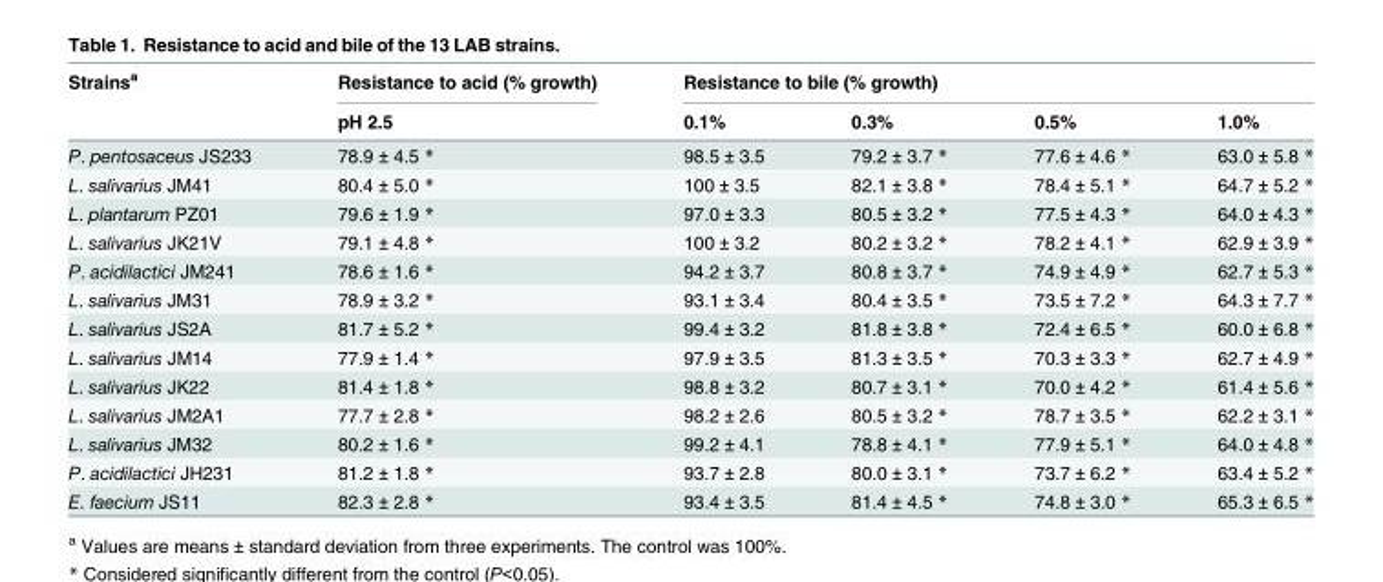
<table><thead><tr><td rowspan="2">Strains<sup>a</sup></td><td rowspan="2">Resistance to acid (% growth) pH 2.5</td><td colspan="4">Resistance to bile (% growth)</td></tr><tr><td>0.1%</td><td>0.3%</td><td>0.5%</td><td>1.0%</td></tr></thead><tbody><tr><td>P. pentosaceus JS233</td><td>78.9 ± 4.5 *</td><td>98.5 ± 3.5</td><td>79.2 ± 3.7 *</td><td>77.6 ± 4.6 *</td><td>63.0 ± 5.8 *</td></tr><tr><td>L. salivarius JM41</td><td>80.4 ± 5.0 *</td><td>100 ± 3.5</td><td>82.1 ± 3.8 *</td><td>78.4 ± 5.1 *</td><td>64.7 ± 5.2 *</td></tr><tr><td>L. plantarum PZ01</td><td>79.6 ± 1.9 *</td><td>97.0 ± 3.3</td><td>80.5 ± 3.2 *</td><td>77.5 ± 4.3 *</td><td>64.0 ± 4.3 *</td></tr><tr><td>L. salivarius JK21V</td><td>79.1 ± 4.8 *</td><td>100 ± 3.2</td><td>80.2 ± 3.2 *</td><td>78.2 ± 4.1 *</td><td>62.9 ± 3.9 *</td></tr><tr><td>P. acidilactici JM241</td><td>78.6 ± 1.6 *</td><td>94.2 ± 3.7</td><td>80.8 ± 3.7 *</td><td>74.9 ± 4.9 *</td><td>62.7 ± 5.3 *</td></tr><tr><td>L. salivarius JM31</td><td>78.9 ± 3.2 *</td><td>93.1 ± 3.4</td><td>80.4 ± 3.5 *</td><td>73.5 ± 7.2 *</td><td>64.3 ± 7.7 *</td></tr><tr><td>L. salivarius JS2A</td><td>81.7 ± 5.2 *</td><td>99.4 ± 3.2</td><td>81.8 ± 3.8 *</td><td>72.4 ± 6.5 *</td><td>60.0 ± 6.8 *</td></tr><tr><td>L. salivarius JM14</td><td>77.9 ± 1.4 *</td><td>97.9 ± 3.5</td><td>81.3 ± 3.5 *</td><td>70.3 ± 3.3 *</td><td>62.7 ± 4.9 *</td></tr><tr><td>L. salivarius JK22</td><td>81.4 ± 1.8 *</td><td>98.8 ± 3.2</td><td>80.7 ± 3.1 *</td><td>70.0 ± 4.2 *</td><td>61.4 ± 5.6 *</td></tr><tr><td>L. salivarius JM2A1</td><td>77.7 ± 2.8 *</td><td>98.2 ± 2.6</td><td>80.5 ± 3.2 *</td><td>78.7 ± 3.5 *</td><td>62.2 ± 3.1 *</td></tr><tr><td>L. salivarius JM32</td><td>80.2 ± 1.6 *</td><td>99.2 ± 4.1</td><td>78.8 ± 4.1 *</td><td>77.9 ± 5.1 *</td><td>64.0 ± 4.8 *</td></tr><tr><td>P. acidilactici JH231</td><td>81.2 ± 1.8 *</td><td>93.7 ± 2.8</td><td>80.0 ± 3.1 *</td><td>73.7 ± 6.2 *</td><td>63.4 ± 5.2 *</td></tr><tr><td>E. faecium JS11</td><td>82.3 ± 2.8 *</td><td>93.4 ± 3.5</td><td>81.4 ± 4.5 *</td><td>74.8 ± 3.0 *</td><td>65.3 ± 6.5 *</td></tr></tbody></table>